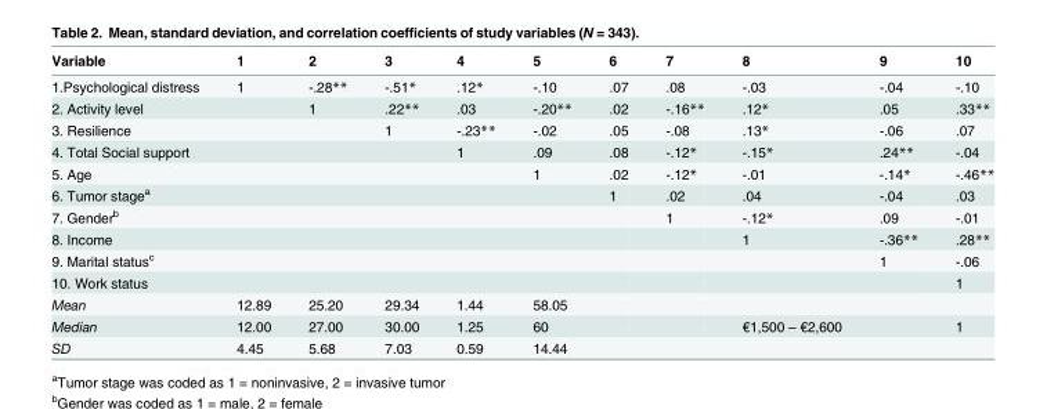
<table><thead><tr><td>Variable</td><td>1</td><td>2</td><td>3</td><td>4</td><td>5</td><td>6</td><td>7</td><td>8</td><td>9</td><td>10</td></tr></thead><tbody><tr><td>1.Psychological distress</td><td>1</td><td>-.28**</td><td>-.51*</td><td>.12*</td><td>-.10</td><td>.07</td><td>.08</td><td>-.03</td><td>-.04</td><td>-.10</td></tr><tr><td>2. Activity level</td><td></td><td>1</td><td>.22**</td><td>.03</td><td>-.20**</td><td>.02</td><td>-.16**</td><td>.12*</td><td>.05</td><td>.33**</td></tr><tr><td>3. Resilience</td><td></td><td></td><td>1</td><td>-.23**</td><td>-.02</td><td>.05</td><td>-.08</td><td>.13*</td><td>-.06</td><td>.07</td></tr><tr><td>4. Total Social support</td><td></td><td></td><td></td><td>1</td><td>.09</td><td>.08</td><td>-.12*</td><td>-.15*</td><td>.24**</td><td>-.04</td></tr><tr><td>5. Age</td><td></td><td></td><td></td><td></td><td>1</td><td>.02</td><td>-.12*</td><td>-.01</td><td>-.14*</td><td>-.46**</td></tr><tr><td>6. Tumor stage<sup>a</sup></td><td></td><td></td><td></td><td></td><td></td><td>1</td><td>.02</td><td>.04</td><td>-.04</td><td>.03</td></tr><tr><td>7. Gender<sup>b</sup></td><td></td><td></td><td></td><td></td><td></td><td></td><td>1</td><td>-.12*</td><td>.09</td><td>-.01</td></tr><tr><td>8. Income</td><td></td><td></td><td></td><td></td><td></td><td></td><td></td><td>1</td><td>-.36**</td><td>.28**</td></tr><tr><td>9. Marital status<sup>c</sup></td><td></td><td></td><td></td><td></td><td></td><td></td><td></td><td></td><td>1</td><td>-.06</td></tr><tr><td>10. Work status</td><td></td><td></td><td></td><td></td><td></td><td></td><td></td><td></td><td></td><td>1</td></tr><tr><td>Mean</td><td>12.89</td><td>25.20</td><td>29.34</td><td>1.44</td><td>58.05</td><td></td><td></td><td></td><td></td><td></td></tr><tr><td>Median</td><td>12.00</td><td>27.00</td><td>30.00</td><td>1.25</td><td>60</td><td></td><td></td><td>€1,500 – €2,600</td><td></td><td>1</td></tr><tr><td>SD</td><td>4.45</td><td>5.68</td><td>7.03</td><td>0.59</td><td>14.44</td><td></td><td></td><td></td><td></td><td></td></tr></tbody></table>